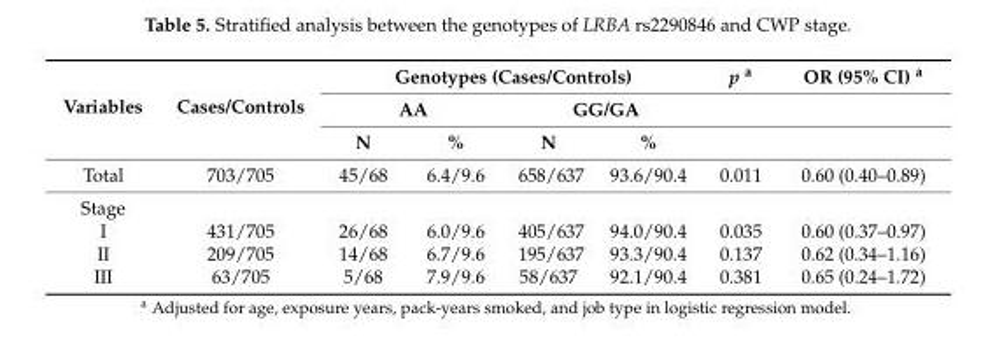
<table><thead><tr><td rowspan="3">Variables</td><td rowspan="3">Cases/Controls</td><td colspan="4">Genotypes (Cases/Controls)</td><td rowspan="3">p <sup>a</sup></td><td rowspan="3">OR (95% CI) <sup>a</sup></td></tr><tr><td colspan="2">AA</td><td colspan="2">GG/GA</td></tr><tr><td>N</td><td>%</td><td>N</td><td>%</td></tr></thead><tbody><tr><td>Total</td><td>703/705</td><td>45/68</td><td>6.4/9.6</td><td>658/637</td><td>93.6/90.4</td><td>0.011</td><td>0.60 (0.40–0.89)</td></tr><tr><td colspan="8">Stage</td></tr><tr><td>I</td><td>431/705</td><td>26/68</td><td>6.0/9.6</td><td>405/637</td><td>94.0/90.4</td><td>0.035</td><td>0.60 (0.37–0.97)</td></tr><tr><td>II</td><td>209/705</td><td>14/68</td><td>6.7/9.6</td><td>195/637</td><td>93.3/90.4</td><td>0.137</td><td>0.62 (0.34–1.16)</td></tr><tr><td>III</td><td>63/705</td><td>5/68</td><td>7.9/9.6</td><td>58/637</td><td>92.1/90.4</td><td>0.381</td><td>0.65 (0.24–1.72)</td></tr></tbody></table>